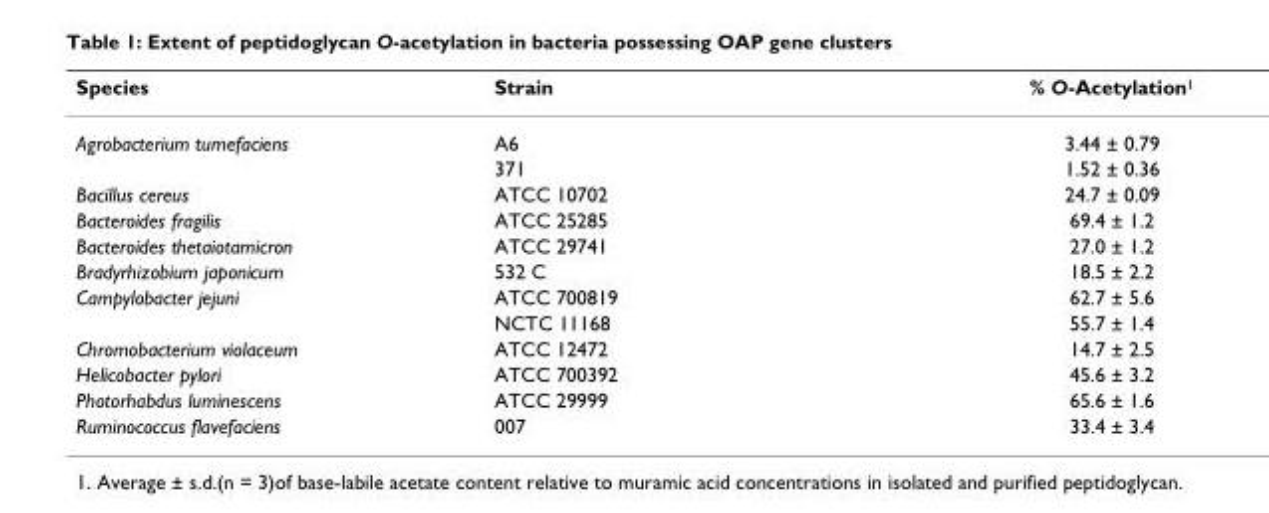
<table><thead><tr><td>Species</td><td>Strain</td><td>% O-Acetylation1</td></tr></thead><tbody><tr><td rowspan="2">Agrobacterium tumefaciens</td><td>A6</td><td>3.44 ± 0.79</td></tr><tr><td>371</td><td>1.52 ± 0.36</td></tr><tr><td>Bacillus cereus</td><td>ATCC 10702</td><td>24.7 ± 0.09</td></tr><tr><td>Bacteroides fragilis</td><td>ATCC 25285</td><td>69.4 ± 1.2</td></tr><tr><td>Bacteroides thetaiotamicron</td><td>ATCC 29741</td><td>27.0 ± 1.2</td></tr><tr><td>Bradyrhizobium japonicum</td><td>532 C</td><td>18.5 ± 2.2</td></tr><tr><td rowspan="2">Campylobacter jejuni</td><td>ATCC 700819</td><td>62.7 ± 5.6</td></tr><tr><td>NCTC 11168</td><td>55.7 ± 1.4</td></tr><tr><td>Chromobacterium violaceum</td><td>ATCC 12472</td><td>14.7 ± 2.5</td></tr><tr><td>Helicobacter pylori</td><td>ATCC 700392</td><td>45.6 ± 3.2</td></tr><tr><td>Photorhabdus luminescens</td><td>ATCC 29999</td><td>65.6 ± 1.6</td></tr><tr><td>Ruminococcus flavefaciens</td><td>007</td><td>33.4 ± 3.4</td></tr></tbody></table>